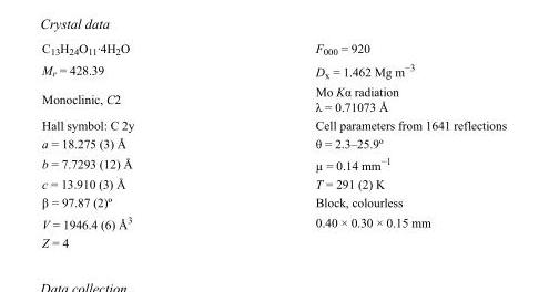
<table><tbody><tr><td>C<sub>13</sub>H<sub>24</sub>O<sub>11</sub>·4H<sub>2</sub>O</td><td>F<sub>000</sub> = 920</td></tr><tr><td>M<sub>r</sub> = 428.39</td><td>D<sub>x</sub> = 1.462 Mg m<sup>−3</sup></td></tr><tr><td>Monoclinic, C2</td><td>Mo Kα radiation λ = 0.71073 Å</td></tr><tr><td>Hall symbol: C 2y</td><td>Cell parameters from 1641 reflections</td></tr><tr><td>a = 18.275 (3) Å</td><td>θ = 2.3–25.9º</td></tr><tr><td>b = 7.7293 (12) Å</td><td>µ = 0.14 mm<sup>−1</sup></td></tr><tr><td>c = 13.910 (3) Å</td><td>T = 291 (2) K</td></tr><tr><td>β = 97.87 (2)º</td><td>Block, colourless</td></tr><tr><td>V = 1946.4 (6) Å<sup>3</sup></td><td>0.40 × 0.30 × 0.15 mm</td></tr><tr><td>Z = 4</td><td></td></tr></tbody></table>